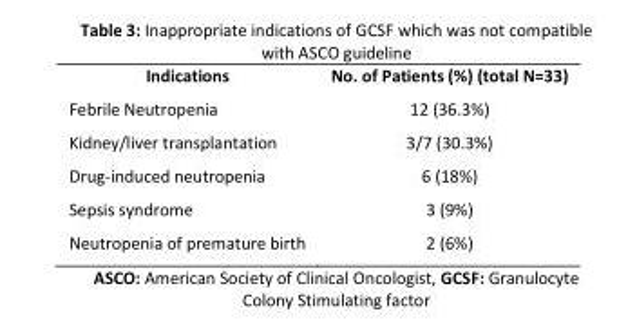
<table><tbody><tr><td>Indications</td><td>No. of Patients (%) (total N=33)</td></tr><tr><td>Febrile Neutropenia</td><td>12 (36.3%)</td></tr><tr><td>Kidney/liver transplantation</td><td>3/7 (30.3%)</td></tr><tr><td>Drug-induced neutropenia</td><td>6 (18%)</td></tr><tr><td>Sepsis syndrome</td><td>3 (9%)</td></tr><tr><td>Neutropenia of premature birth</td><td>2 (6%)</td></tr></tbody></table>